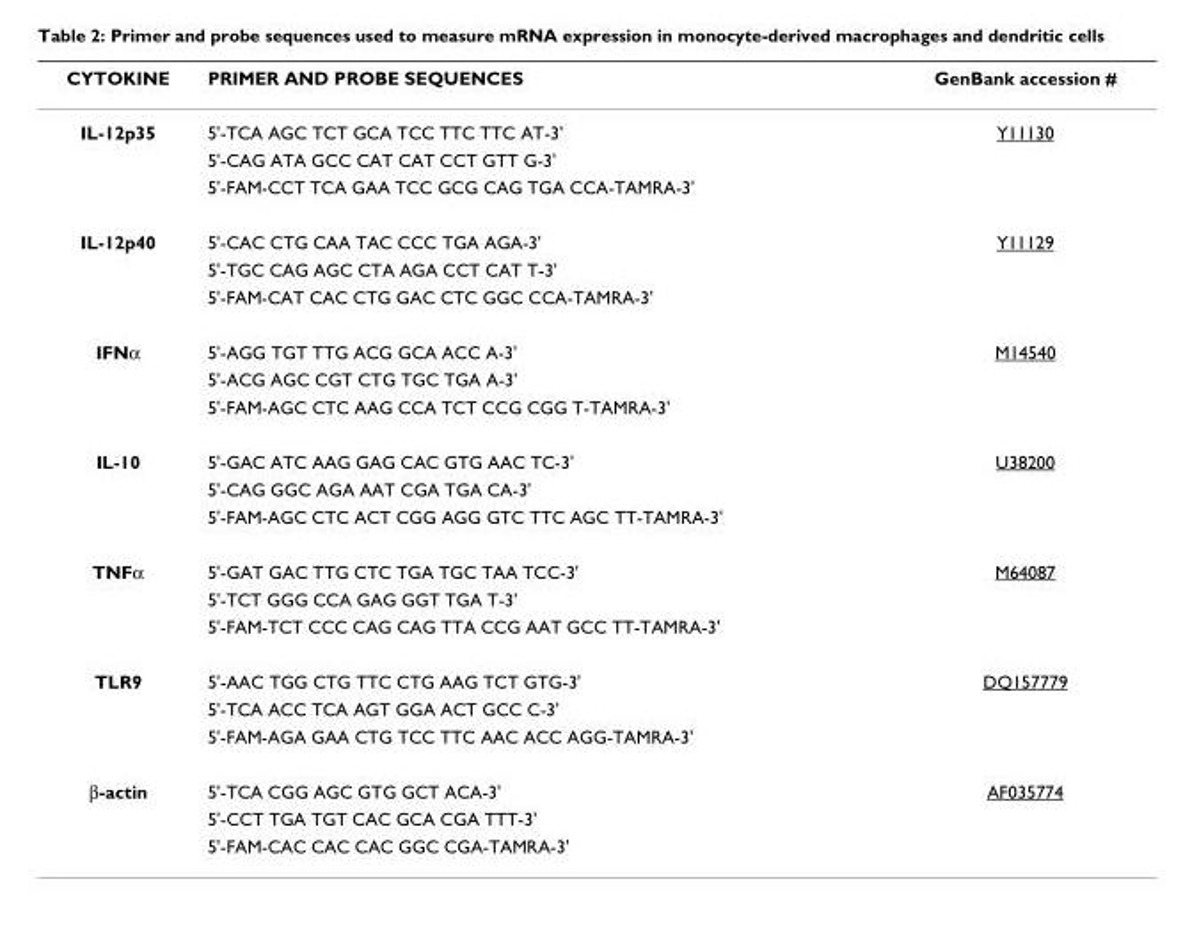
<table><thead><tr><td>CYTOKINE</td><td>PRIMER AND PROBE SEQUENCES</td><td>GenBank accession #</td></tr></thead><tbody><tr><td rowspan="3">IL-12p35</td><td>5&#x27;-TCA AGC TCT GCA TCC TTC TTC AT-3&#x27;</td><td>Y11130</td></tr><tr><td>5&#x27;-CAG ATA GCC CAT CAT CCT GTT G-3&#x27;</td><td></td></tr><tr><td>5&#x27;-FAM-CCT TCA GAA TCC GCG CAG TGA CCA-TAMRA-3&#x27;</td><td></td></tr><tr><td rowspan="3">IL-12p40</td><td>5&#x27;-CAC CTG CAA TAC CCC TGA AGA-3&#x27;</td><td>Y11129</td></tr><tr><td>5&#x27;-TGC CAG AGC CTA AGA CCT CAT T-3&#x27;</td><td></td></tr><tr><td>5&#x27;-FAM-CAT CAC CTG GAC CTC GGC CCA-TAMRA-3&#x27;</td><td></td></tr><tr><td rowspan="3">IFNα</td><td>5&#x27;-AGG TGT TTG ACG GCA ACC A-3&#x27;</td><td>M14540</td></tr><tr><td>5&#x27;-ACG AGC CGT CTG TGC TGA A-3&#x27;</td><td></td></tr><tr><td>5&#x27;-FAM-AGC CTC AAG CCA TCT CCG CGG T-TAMRA-3&#x27;</td><td></td></tr><tr><td rowspan="3">IL-10</td><td>5&#x27;-GAC ATC AAG GAG CAC GTG AAC TC-3&#x27;</td><td>U38200</td></tr><tr><td>5&#x27;-CAG GGC AGA AAT CGA TGA CA-3&#x27;</td><td></td></tr><tr><td>5&#x27;-FAM-AGC CTC ACT CGG AGG GTC TTC AGC TT-TAMRA-3&#x27;</td><td></td></tr><tr><td rowspan="3">TNFα</td><td>5&#x27;-GAT GAC TTG CTC TGA TGC TAA TCC-3&#x27;</td><td>M64087</td></tr><tr><td>5&#x27;-TCT GGG CCA GAG GGT TGA T-3&#x27;</td><td></td></tr><tr><td>5&#x27;-FAM-TCT CCC CAG CAG TTA CCG AAT GCC TT-TAMRA-3&#x27;</td><td></td></tr><tr><td rowspan="3">TLR9</td><td>5&#x27;-AAC TGG CTG TTC CTG AAG TCT GTG-3&#x27;</td><td>DQ157779</td></tr><tr><td>5&#x27;-TCA ACC TCA AGT GGA ACT GCC C-3&#x27;</td><td></td></tr><tr><td>5&#x27;-FAM-AGA GAA CTG TCC TTC AAC ACC AGG-TAMRA-3&#x27;</td><td></td></tr><tr><td rowspan="3">β-actin</td><td>5&#x27;-TCA CGG AGC GTG GCT ACA-3&#x27;</td><td>AF035774</td></tr><tr><td>5&#x27;-CCT TGA TGT CAC GCA CGA TTT-3&#x27;</td><td></td></tr><tr><td>5&#x27;-FAM-CAC CAC CAC GGC CGA-TAMRA-3&#x27;</td><td></td></tr></tbody></table>